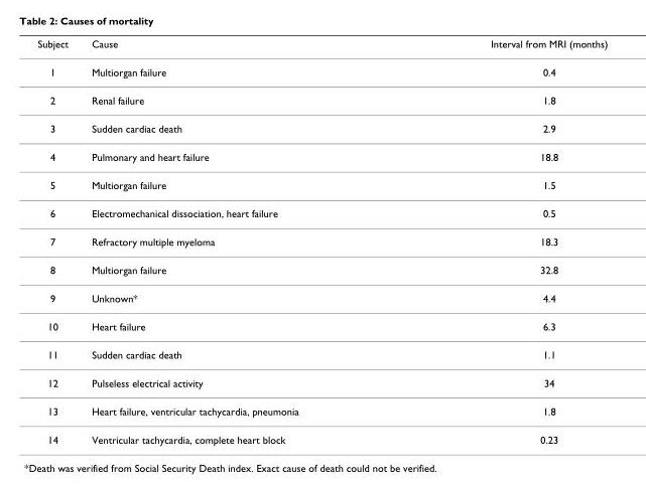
<table><thead><tr><td>Subject</td><td>Cause</td><td>Interval from MRI (months)</td></tr></thead><tbody><tr><td>1</td><td>Multiorgan failure</td><td>0.4</td></tr><tr><td>2</td><td>Renal failure</td><td>1.8</td></tr><tr><td>3</td><td>Sudden cardiac death</td><td>2.9</td></tr><tr><td>4</td><td>Pulmonary and heart failure</td><td>18.8</td></tr><tr><td>5</td><td>Multiorgan failure</td><td>1.5</td></tr><tr><td>6</td><td>Electromechanical dissociation, heart failure</td><td>0.5</td></tr><tr><td>7</td><td>Refractory multiple myeloma</td><td>18.3</td></tr><tr><td>8</td><td>Multiorgan failure</td><td>32.8</td></tr><tr><td>9</td><td>Unknown*</td><td>4.4</td></tr><tr><td>10</td><td>Heart failure</td><td>6.3</td></tr><tr><td>11</td><td>Sudden cardiac death</td><td>1.1</td></tr><tr><td>12</td><td>Pulseless electrical activity</td><td>34</td></tr><tr><td>13</td><td>Heart failure, ventricular tachycardia, pneumonia</td><td>1.8</td></tr><tr><td>14</td><td>Ventricular tachycardia, complete heart block</td><td>0.23</td></tr></tbody></table>